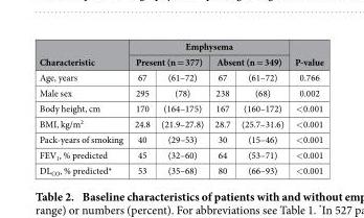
<table><thead><tr><td rowspan="3">Characteristic Age, years</td><td colspan="4">Emphysema</td><td rowspan="3">P-value 0.766</td></tr><tr><td colspan="2">Present (n = 377)</td><td colspan="2">Absent (n = 349)</td></tr><tr><td>67</td><td>(61–72)</td><td>67</td><td>(61–72)</td></tr></thead><tbody><tr><td>Male sex</td><td>295</td><td>(78)</td><td>238</td><td>(68)</td><td>0.002</td></tr><tr><td>Body height, cm</td><td>170</td><td>(164–175)</td><td>167</td><td>(160–172)</td><td>&lt; 0.001</td></tr><tr><td>BMI, kg/m<sup>2</sup></td><td>24.8</td><td>(21.9–27.8)</td><td>28.7</td><td>(25.7–31.6)</td><td>&lt; 0.001</td></tr><tr><td>Pack-years of smoking</td><td>40</td><td>(29–53)</td><td>30</td><td>(15–46)</td><td>&lt; 0.001</td></tr><tr><td>FEV<sub>1</sub>, % predicted</td><td>45</td><td>(32–60)</td><td>64</td><td>(53–71)</td><td>&lt; 0.001</td></tr><tr><td>DL<sub>CO</sub>, % predicted*</td><td>53</td><td>(35–68)</td><td>80</td><td>(66–93)</td><td>&lt; 0.001</td></tr></tbody></table>